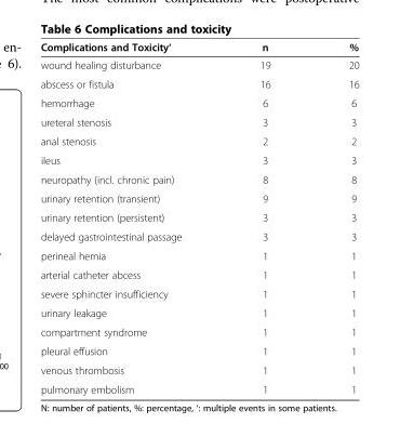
<table><thead><tr><td>Complications and Toxicity‘</td><td>n</td><td>%</td></tr></thead><tbody><tr><td>wound healing disturbance</td><td>19</td><td>20</td></tr><tr><td>abscess or fistula</td><td>16</td><td>16</td></tr><tr><td>hemorrhage</td><td>6</td><td>6</td></tr><tr><td>ureteral stenosis</td><td>3</td><td>3</td></tr><tr><td>anal stenosis</td><td>2</td><td>2</td></tr><tr><td>ileus</td><td>3</td><td>3</td></tr><tr><td>neuropathy (incl. chronic pain)</td><td>8</td><td>8</td></tr><tr><td>urinary retention (transient)</td><td>9</td><td>9</td></tr><tr><td>urinary retention (persistent)</td><td>3</td><td>3</td></tr><tr><td>delayed gastrointestinal passage</td><td>3</td><td>3</td></tr><tr><td>perineal hernia</td><td>1</td><td>1</td></tr><tr><td>arterial catheter abcess</td><td>1</td><td>1</td></tr><tr><td>severe sphincter insufficiency</td><td>1</td><td>1</td></tr><tr><td>urinary leakage</td><td>1</td><td>1</td></tr><tr><td>compartment syndrome</td><td>1</td><td>1</td></tr><tr><td>pleural effusion</td><td>1</td><td>1</td></tr><tr><td>venous thrombosis</td><td>1</td><td>1</td></tr><tr><td>pulmonary embolism</td><td>1</td><td>1</td></tr></tbody></table>